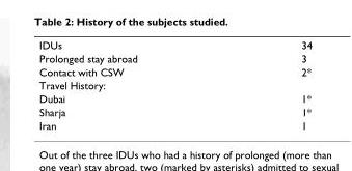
<table><tbody><tr><td>IDUs</td><td>34</td></tr><tr><td>Prolonged stay abroad</td><td>3</td></tr><tr><td>Contact with CSW</td><td>2*</td></tr><tr><td colspan="2">Travel History:</td></tr><tr><td>Dubai</td><td>1*</td></tr><tr><td>Sharja</td><td>1*</td></tr><tr><td>Iran</td><td>1</td></tr></tbody></table>